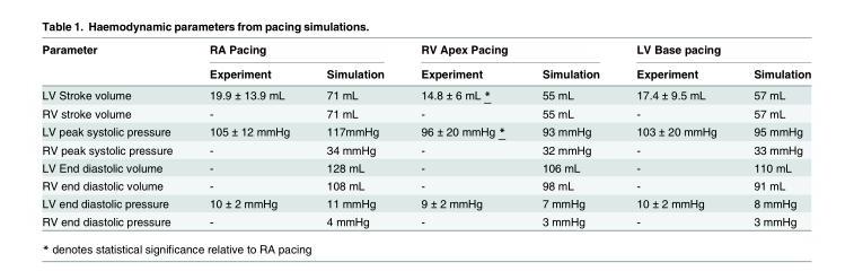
<table><thead><tr><td rowspan="2">Parameter</td><td colspan="2">RA Pacing</td><td colspan="2">RV Apex Pacing</td><td colspan="2">LV Base pacing</td></tr><tr><td>Experiment</td><td>Simulation</td><td>Experiment</td><td>Simulation</td><td>Experiment</td><td>Simulation</td></tr></thead><tbody><tr><td>LV Stroke volume</td><td>19.9 ± 13.9 mL</td><td>71 mL</td><td>14.8 ± 6 mL *</td><td>55 mL</td><td>17.4 ± 9.5 mL</td><td>57 mL</td></tr><tr><td>RV stroke volume</td><td>-</td><td>71 mL</td><td>-</td><td>55 mL</td><td>-</td><td>57 mL</td></tr><tr><td>LV peak systolic pressure</td><td>105 ± 12 mmHg</td><td>117mmHg</td><td>96 ± 20 mmHg *</td><td>93 mmHg</td><td>103 ± 20 mmHg</td><td>95 mmHg</td></tr><tr><td>RV peak systolic pressure</td><td>-</td><td>34 mmHg</td><td>-</td><td>32 mmHg</td><td>-</td><td>33 mmHg</td></tr><tr><td>LV End diastolic volume</td><td>-</td><td>128 mL</td><td>-</td><td>106 mL</td><td>-</td><td>110 mL</td></tr><tr><td>RV end diastolic volume</td><td>-</td><td>108 mL</td><td>-</td><td>98 mL</td><td>-</td><td>91 mL</td></tr><tr><td>LV end diastolic pressure</td><td>10 ± 2 mmHg</td><td>11 mmHg</td><td>9 ± 2 mmHg</td><td>7 mmHg</td><td>10 ± 2 mmHg</td><td>8 mmHg</td></tr><tr><td>RV end diastolic pressure</td><td>-</td><td>4 mmHg</td><td>-</td><td>3 mmHg</td><td>-</td><td>3 mmHg</td></tr></tbody></table>